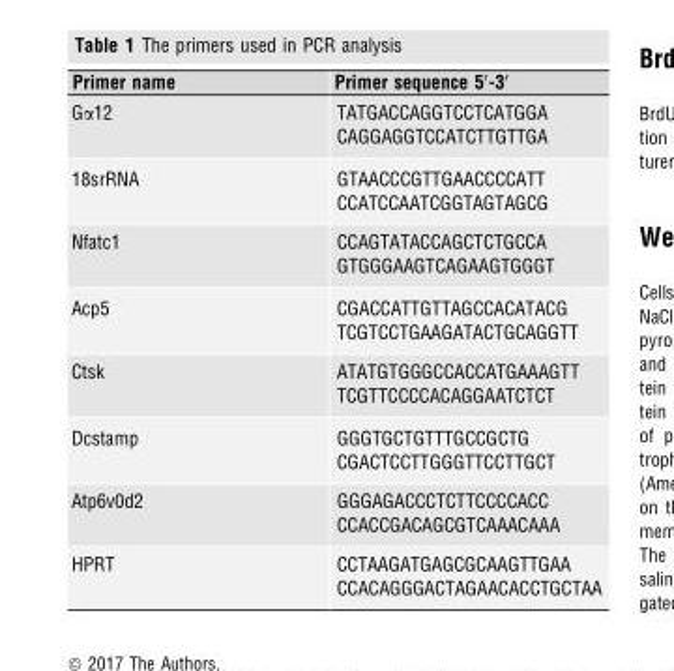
<table><thead><tr><td>Primer name</td><td>Primer sequence 5′-3′</td></tr></thead><tbody><tr><td>Gα12</td><td>TATGACCAGGTCCTCATGGA CAGGAGGTCCATCTTGTTGA</td></tr><tr><td>18srRNA</td><td>GTAACCCGTTGAACCCCATT CCATCCAATCGGTAGTAGCG</td></tr><tr><td>Nfatc1</td><td>CCAGTATACCAGCTCTGCCA GTGGGAAGTCAGAAGTGGGT</td></tr><tr><td>Acp5</td><td>CGACCATTGTTAGCCACATACG TCGTCCTGAAGATACTGCAGGTT</td></tr><tr><td>Ctsk</td><td>ATATGTGGGCCACCATGAAAGTT TCGTTCCCCACAGGAATCTCT</td></tr><tr><td>Dcstamp</td><td>GGGTGCTGTTTGCCGCTG CGACTCCTTGGGTTCCTTGCT</td></tr><tr><td>Atp6v0d2</td><td>GGGAGACCCTCTTCCCCACC CCACCGACAGCGTCAAACAAA</td></tr><tr><td>HPRT</td><td>CCTAAGATGAGCGCAAGTTGAA CCACAGGGACTAGAACACCTGCTAA</td></tr></tbody></table>